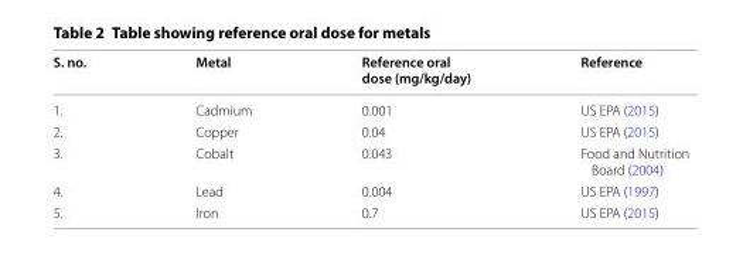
<table><thead><tr><td>S. no.</td><td>Metal</td><td>Reference oral dose (mg/kg/day)</td><td>Reference</td></tr></thead><tbody><tr><td>1.</td><td>Cadmium</td><td>0.001</td><td>US EPA (2015)</td></tr><tr><td>2.</td><td>Copper</td><td>0.04</td><td>US EPA (2015)</td></tr><tr><td>3.</td><td>Cobalt</td><td>0.043</td><td>Food and Nutrition Board (2004)</td></tr><tr><td>4.</td><td>Lead</td><td>0.004</td><td>US EPA (1997)</td></tr><tr><td>5.</td><td>Iron</td><td>0.7</td><td>US EPA (2015)</td></tr></tbody></table>